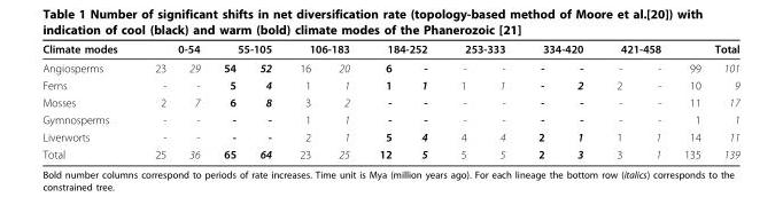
<table><thead><tr><td rowspan="2">Climate modes Angiosperms</td><td colspan="2">0-54</td><td colspan="2">55-105</td><td colspan="2">106-183</td><td colspan="2">184-252</td><td colspan="2">253-333</td><td colspan="2">334-420</td><td colspan="2">421-458</td><td colspan="2">Total</td></tr><tr><td>23</td><td>29</td><td>54</td><td>52</td><td>16</td><td>20</td><td>6</td><td>-</td><td>-</td><td>-</td><td>-</td><td>-</td><td>-</td><td>-</td><td>99</td><td>101</td></tr></thead><tbody><tr><td>Ferns</td><td>-</td><td>-</td><td>5</td><td>4</td><td>1</td><td>1</td><td>1</td><td>1</td><td>1</td><td>1</td><td>-</td><td>2</td><td>2</td><td>-</td><td>10</td><td>9</td></tr><tr><td>Mosses</td><td>2</td><td>7</td><td>6</td><td>8</td><td>3</td><td>2</td><td>-</td><td>-</td><td>-</td><td>-</td><td>-</td><td>-</td><td>-</td><td>-</td><td>11</td><td>17</td></tr><tr><td>Gymnosperms</td><td>-</td><td>-</td><td>-</td><td>-</td><td>1</td><td>1</td><td>-</td><td>-</td><td>-</td><td>-</td><td>-</td><td>-</td><td>-</td><td>-</td><td>1</td><td>1</td></tr><tr><td>Liverworts</td><td>-</td><td>-</td><td>-</td><td>-</td><td>2</td><td>1</td><td>5</td><td>4</td><td>4</td><td>4</td><td>2</td><td>1</td><td>1</td><td>1</td><td>14</td><td>11</td></tr><tr><td>Total</td><td>25</td><td>36</td><td>65</td><td>64</td><td>23</td><td>25</td><td>12</td><td>5</td><td>5</td><td>5</td><td>2</td><td>3</td><td>3</td><td>1</td><td>135</td><td>139</td></tr></tbody></table>